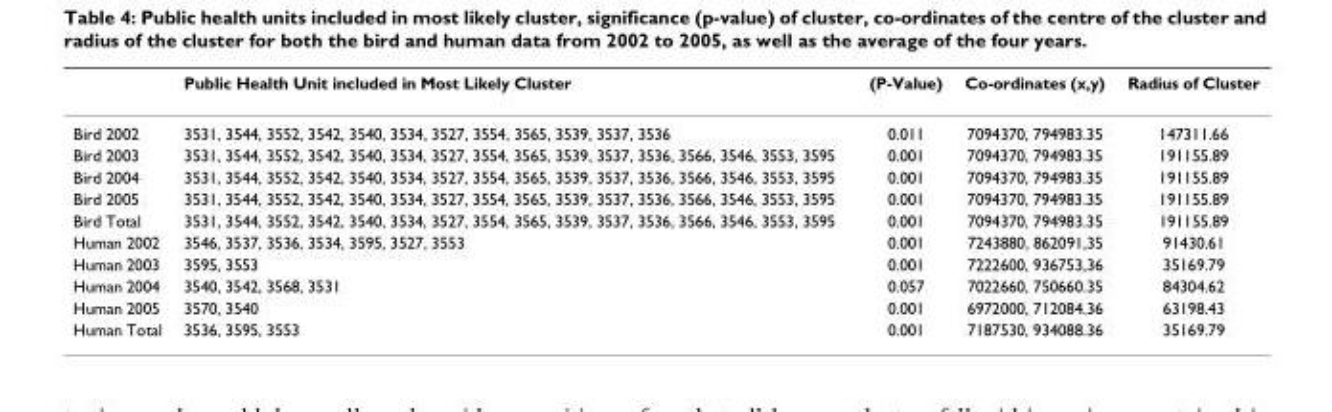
<table><thead><tr><td></td><td>Public Health Unit included in Most Likely Cluster</td><td>(P-Value)</td><td>Co-ordinates (x,y)</td><td>Radius of Cluster</td></tr></thead><tbody><tr><td>Bird 2002</td><td>3531, 3544, 3552, 3542, 3540, 3534, 3527, 3554, 3565, 3539, 3537, 3536</td><td>0.011</td><td>7094370, 794983.35</td><td>147311.66</td></tr><tr><td>Bird 2003</td><td>3531, 3544, 3552, 3542, 3540, 3534, 3527, 3554, 3565, 3539, 3537, 3536, 3566, 3546, 3553, 3595</td><td>0.001</td><td>7094370, 794983.35</td><td>191155.89</td></tr><tr><td>Bird 2004</td><td>3531, 3544, 3552, 3542, 3540, 3534, 3527, 3554, 3565, 3539, 3537, 3536, 3566, 3546, 3553, 3595</td><td>0.001</td><td>7094370, 794983.35</td><td>191155.89</td></tr><tr><td>Bird 2005</td><td>3531, 3544, 3552, 3542, 3540, 3534, 3527, 3554, 3565, 3539, 3537, 3536, 3566, 3546, 3553, 3595</td><td>0.001</td><td>7094370, 794983.35</td><td>191155.89</td></tr><tr><td>Bird Total</td><td>3531, 3544, 3552, 3542, 3540, 3534, 3527, 3554, 3565, 3539, 3537, 3536, 3566, 3546, 3553, 3595</td><td>0.001</td><td>7094370, 794983.35</td><td>191155.89</td></tr><tr><td>Human 2002</td><td>3546, 3537, 3536, 3534, 3595, 3527, 3553</td><td>0.001</td><td>7243880, 862091,35</td><td>91430.61</td></tr><tr><td>Human 2003</td><td>3595, 3553</td><td>0.001</td><td>7222600, 936753,36</td><td>35169.79</td></tr><tr><td>Human 2004</td><td>3540, 3542, 3568, 3531</td><td>0.057</td><td>7022660, 750660.35</td><td>84304.62</td></tr><tr><td>Human 2005</td><td>3570, 3540</td><td>0.001</td><td>6972000, 712084.36</td><td>63198.43</td></tr><tr><td>Human Total</td><td>3536, 3595, 3553</td><td>0.001</td><td>7187530, 934088.36</td><td>35169.79</td></tr></tbody></table>